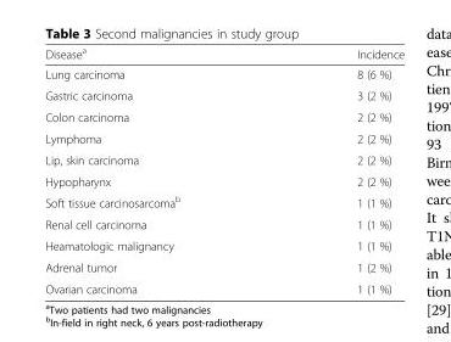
<table><thead><tr><td>Disease<sup>a</sup></td><td>Incidence</td></tr></thead><tbody><tr><td>Lung carcinoma</td><td>8 (6 %)</td></tr><tr><td>Gastric carcinoma</td><td>3 (2 %)</td></tr><tr><td>Colon carcinoma</td><td>2 (2 %)</td></tr><tr><td>Lymphoma</td><td>2 (2 %)</td></tr><tr><td>Lip, skin carcinoma</td><td>2 (2 %)</td></tr><tr><td>Hypopharynx</td><td>2 (2 %)</td></tr><tr><td>Soft tissue carcinosarcoma<sup>b</sup></td><td>1 (1 %)</td></tr><tr><td>Renal cell carcinoma</td><td>1 (1 %)</td></tr><tr><td>Heamatologic malignancy</td><td>1 (1 %)</td></tr><tr><td>Adrenal tumor</td><td>1 (2 %)</td></tr><tr><td>Ovarian carcinoma</td><td>1 (1 %)</td></tr></tbody></table>